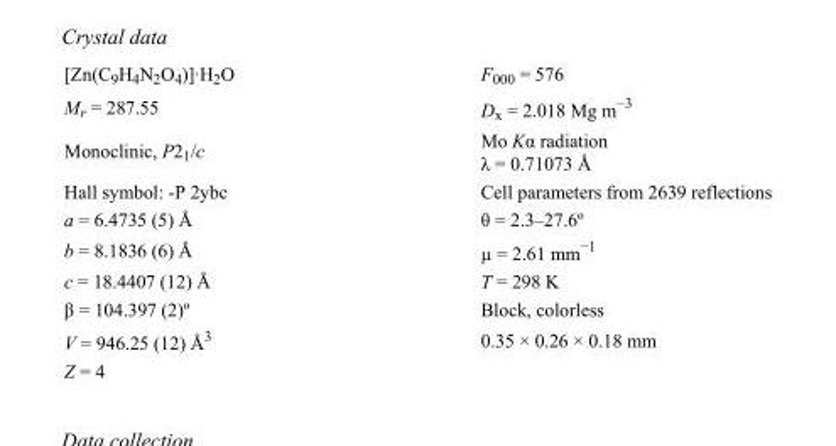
<table><tbody><tr><td>[Zn(C<sub>9</sub>H<sub>4</sub>N<sub>2</sub>O<sub>4</sub>)]·H<sub>2</sub>O</td><td>F000 = 576</td></tr><tr><td>M<sub>r</sub> = 287.55</td><td>D<sub>x</sub> = 2.018 Mg m<sup>−3</sup></td></tr><tr><td>Monoclinic, P2<sub>1</sub>/c</td><td>Mo Kα radiation λ = 0.71073 Å</td></tr><tr><td>Hall symbol: -P 2ybc</td><td>Cell parameters from 2639 reflections</td></tr><tr><td>a = 6.4735 (5) Å</td><td>θ = 2.3–27.6º</td></tr><tr><td>b = 8.1836 (6) Å</td><td>µ = 2.61 mm<sup>−1</sup></td></tr><tr><td>c = 18.4407 (12) Å</td><td>T = 298 K</td></tr><tr><td>β = 104.397 (2)º</td><td>Block, colorless</td></tr><tr><td>V = 946.25 (12) Å<sup>3</sup></td><td>0.35 × 0.26 × 0.18 mm</td></tr><tr><td>Z = 4</td><td></td></tr></tbody></table>